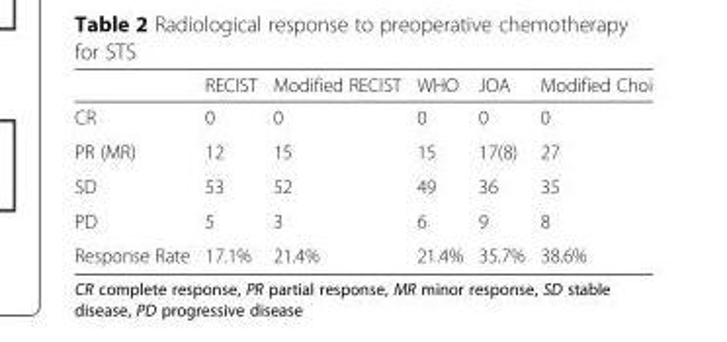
<table><thead><tr><td></td><td>RECIST</td><td>Modified RECIST</td><td>WHO</td><td>JOA</td><td>Modified Choi</td></tr></thead><tbody><tr><td>CR</td><td>0</td><td>0</td><td>0</td><td>0</td><td>0</td></tr><tr><td>PR (MR)</td><td>12</td><td>15</td><td>15</td><td>17(8)</td><td>27</td></tr><tr><td>SD</td><td>53</td><td>52</td><td>49</td><td>36</td><td>35</td></tr><tr><td>PD</td><td>5</td><td>3</td><td>6</td><td>9</td><td>8</td></tr><tr><td>Response Rate</td><td>17.1%</td><td>21.4%</td><td>21.4%</td><td>35.7%</td><td>38.6%</td></tr></tbody></table>